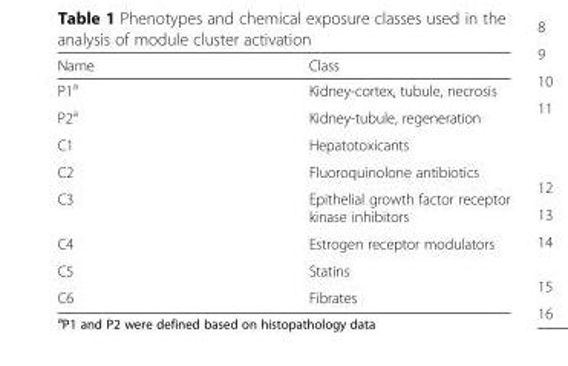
<table><thead><tr><td>Name</td><td>Class</td></tr></thead><tbody><tr><td>P1<sup>a</sup></td><td>Kidney-cortex, tubule, necrosis</td></tr><tr><td>P2<sup>a</sup></td><td>Kidney-tubule, regeneration</td></tr><tr><td>C1</td><td>Hepatotoxicants</td></tr><tr><td>C2</td><td>Fluoroquinolone antibiotics</td></tr><tr><td>C3</td><td>Epithelial growth factor receptor kinase inhibitors</td></tr><tr><td>C4</td><td>Estrogen receptor modulators</td></tr><tr><td>C5</td><td>Statins</td></tr><tr><td>C6</td><td>Fibrates</td></tr></tbody></table>